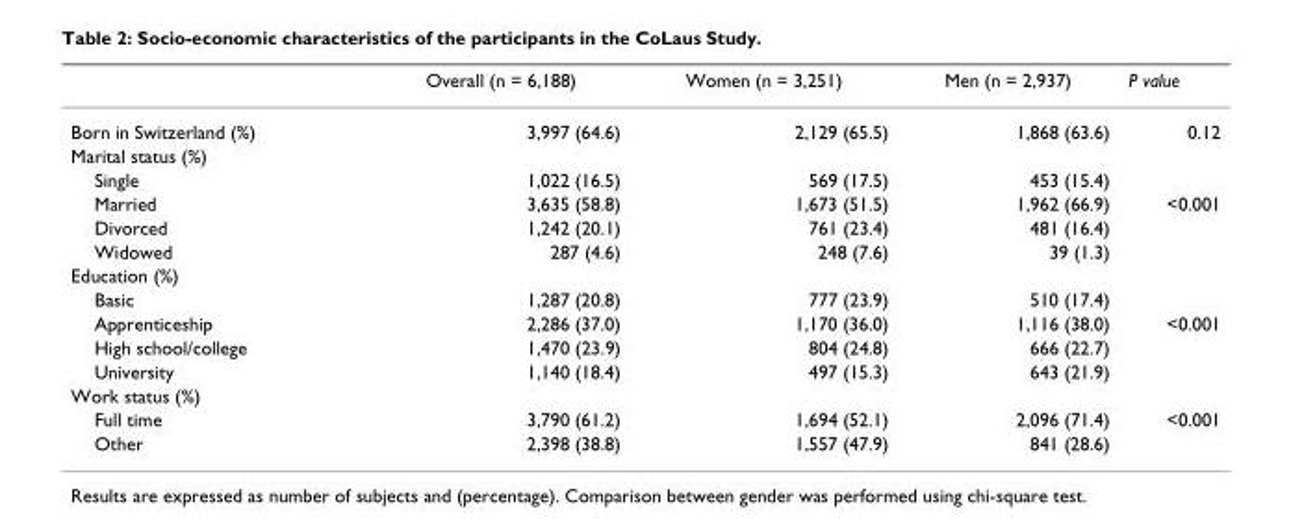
<table><thead><tr><td></td><td>Overall (n = 6,188)</td><td>Women (n = 3,251)</td><td>Men (n = 2,937)</td><td>P value</td></tr></thead><tbody><tr><td>Born in Switzerland (%)</td><td>3,997 (64.6)</td><td>2,129 (65.5)</td><td>1,868 (63.6)</td><td>0.12</td></tr><tr><td colspan="5">Marital status (%)</td></tr><tr><td>Single</td><td>1,022 (16.5)</td><td>569 (17.5)</td><td>453 (15.4)</td><td></td></tr><tr><td>Married</td><td>3,635 (58.8)</td><td>1,673 (51.5)</td><td>1,962 (66.9)</td><td>&lt;0.001</td></tr><tr><td>Divorced</td><td>1,242 (20.1)</td><td>761 (23.4)</td><td>481 (16.4)</td><td></td></tr><tr><td>Widowed</td><td>287 (4.6)</td><td>248 (7.6)</td><td>39 (1.3)</td><td></td></tr><tr><td colspan="5">Education (%)</td></tr><tr><td>Basic</td><td>1,287 (20.8)</td><td>777 (23.9)</td><td>510 (17.4)</td><td></td></tr><tr><td>Apprenticeship</td><td>2,286 (37.0)</td><td>1,170 (36.0)</td><td>1,116 (38.0)</td><td>&lt;0.001</td></tr><tr><td>High school/college</td><td>1,470 (23.9)</td><td>804 (24.8)</td><td>666 (22.7)</td><td></td></tr><tr><td>University</td><td>1,140 (18.4)</td><td>497 (15.3)</td><td>643 (21.9)</td><td></td></tr><tr><td colspan="5">Work status (%)</td></tr><tr><td>Full time</td><td>3,790 (61.2)</td><td>1,694 (52.1)</td><td>2,096 (71.4)</td><td>&lt;0.001</td></tr><tr><td>Other</td><td>2,398 (38.8)</td><td>1,557 (47.9)</td><td>841 (28.6)</td><td></td></tr></tbody></table>